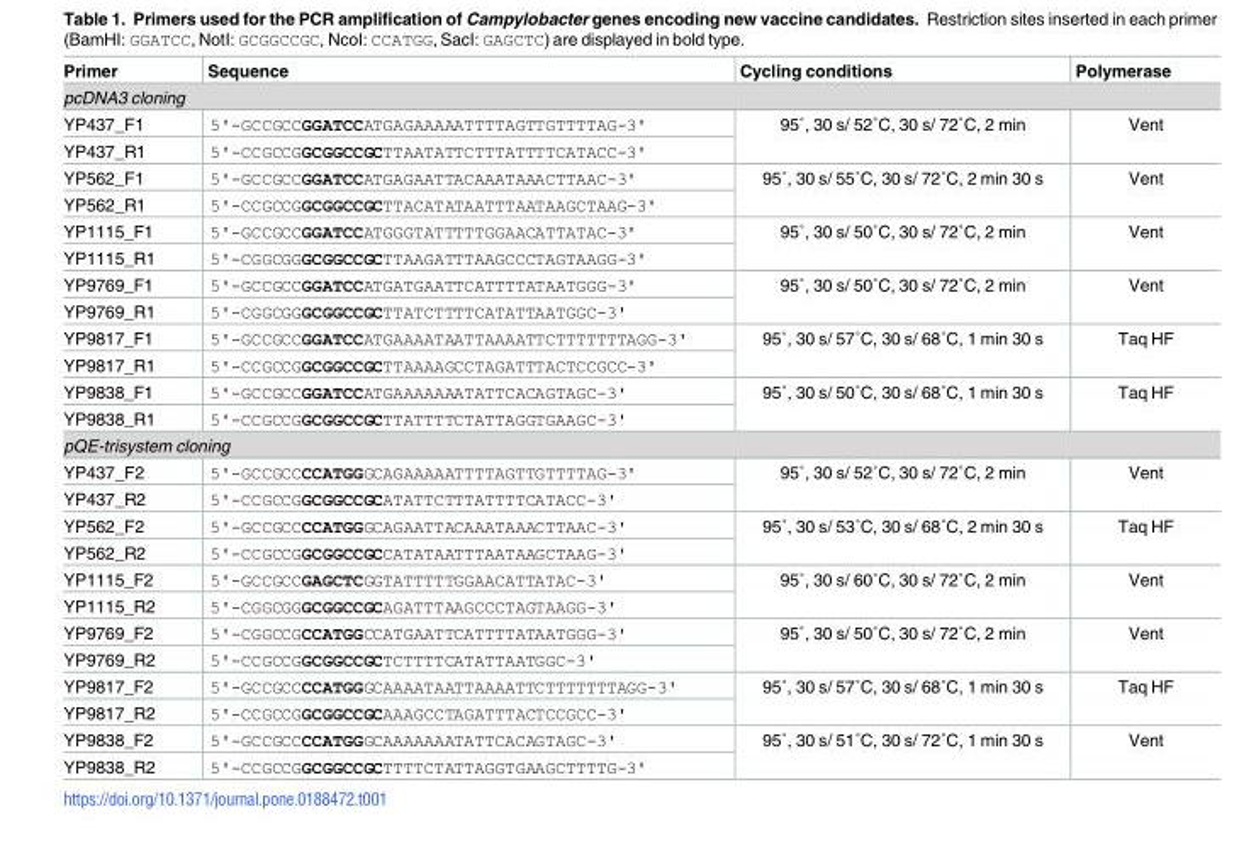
<table><thead><tr><td>Primer</td><td>Sequence</td><td>Cycling conditions</td><td>Polymerase</td></tr></thead><tbody><tr><td colspan="4">pcDNA3 cloning</td></tr><tr><td>YP437_F1</td><td>5&#x27;-GCCGCCGGATCCATGAGAAAAATTTTAGTTGTTTTAG-3&#x27;</td><td rowspan="2">95˚, 30 s/ 52˚C, 30 s/ 72˚C, 2 min</td><td rowspan="2">Vent</td></tr><tr><td>YP437_R1</td><td>5&#x27;-CCGCCGGCGGCCGCTTAATATTCTTTATTTTCATACC-3&#x27;</td></tr><tr><td>YP562_F1</td><td>5&#x27;-GCCGCCGGATCCATGAGAATTACAAATAAACTTAAC-3&#x27;</td><td rowspan="2">95˚, 30 s/ 55˚C, 30 s/ 72˚C, 2 min 30 s</td><td rowspan="2">Vent</td></tr><tr><td>YP562_R1</td><td>5&#x27;-CCGCCGGCGGCCGCTTACATATAATTTAATAAGCTAAG-3&#x27;</td></tr><tr><td>YP1115_F1</td><td>5&#x27;-GCCGCCGGATCCATGGGTATTTTTGGAACATTATAC-3&#x27;</td><td rowspan="2">95˚, 30 s/ 50˚C, 30 s/ 72˚C, 2 min</td><td rowspan="2">Vent</td></tr><tr><td>YP1115_R1</td><td>5&#x27;-CGGCGGGCGGCCGCTTAAGATTTAAGCCCTAGTAAGG-3&#x27;</td></tr><tr><td>YP9769_F1</td><td>5&#x27;-GCCGCCGGATCCATGATGAATTCATTTTATAATGGG-3&#x27;</td><td rowspan="2">95˚, 30 s/ 50˚C, 30 s/ 72˚C, 2 min</td><td rowspan="2">Vent</td></tr><tr><td>YP9769_R1</td><td>5&#x27;-CGGCGGGCGGCCGCTTATCTTTTCATATTAATGGC-3&#x27;</td></tr><tr><td>YP9817_F1</td><td>5&#x27;-GCCGCCGGATCCATGAAAATAATTAAAATTCTTTTTTTAGG-3&#x27;</td><td rowspan="2">95˚, 30 s/ 57˚C, 30 s/ 68˚C, 1 min 30 s</td><td rowspan="2">Taq HF</td></tr><tr><td>YP9817_R1</td><td>5&#x27;-CCGCCGGCGGCCGCTTAAAAGCCTAGATTTACTCCGCC-3&#x27;</td></tr><tr><td>YP9838_F1</td><td>5&#x27;-GCCGCCGGATCCATGAAAAAAATATTCACAGTAGC-3&#x27;</td><td rowspan="2">95˚, 30 s/ 50˚C, 30 s/ 68˚C, 1 min 30 s</td><td rowspan="2">Taq HF</td></tr><tr><td>YP9838_R1</td><td>5&#x27;-CCGCCGGCGGCCGCTTATTTTCTATTAGGTGAAGC-3&#x27;</td></tr><tr><td colspan="4">pQE-trisystem cloning</td></tr><tr><td>YP437_F2</td><td>5&#x27;-GCCGCCCCATGGGCAGAAAAATTTTAGTTGTTTTAG-3&#x27;</td><td rowspan="2">95˚, 30 s/ 52˚C, 30 s/ 72˚C, 2 min</td><td rowspan="2">Vent</td></tr><tr><td>YP437_R2</td><td>5&#x27;-CCGCCGGCGGCCGCATATTCTTTATTTTCATACC-3&#x27;</td></tr><tr><td>YP562_F2</td><td>5&#x27;-GCCGCCCCATGGGCAGAATTACAAATAAACTTAAC-3&#x27;</td><td rowspan="2">95˚, 30 s/ 53˚C, 30 s/ 68˚C, 2 min 30 s</td><td rowspan="2">Taq HF</td></tr><tr><td>YP562_R2</td><td>5&#x27;-CCGCCGGCGGCCGCCATATAATTTAATAAGCTAAG-3&#x27;</td></tr><tr><td>YP1115_F2</td><td>5&#x27;-GCCGCCGAGCTCGGTATTTTTGGAACATTATAC-3&#x27;</td><td rowspan="2">95˚, 30 s/ 60˚C, 30 s/ 72˚C, 2 min</td><td rowspan="2">Vent</td></tr><tr><td>YP1115_R2</td><td>5&#x27;-CGGCGGGCGGCCGCAGATTTAAGCCCTAGTAAGG-3&#x27;</td></tr><tr><td>YP9769_F2</td><td>5&#x27;-CGGCCGCCATGGCCATGAATTCATTTTATAATGGG-3&#x27;</td><td rowspan="2">95˚, 30 s/ 50˚C, 30 s/ 72˚C, 2 min</td><td rowspan="2">Vent</td></tr><tr><td>YP9769_R2</td><td>5&#x27;-CCGCCGGCGGCCGCTCTTTTCATATTAATGGC-3&#x27;</td></tr><tr><td>YP9817_F2</td><td>5&#x27;-GCCGCCCCATGGGCAAAATAATTAAAATTCTTTTTTTAGG-3&#x27;</td><td rowspan="2">95˚, 30 s/ 57˚C, 30 s/ 68˚C, 1 min 30 s</td><td rowspan="2">Taq HF</td></tr><tr><td>YP9817_R2</td><td>5&#x27;-CCGCCGGCGGCCGCAAAGCCTAGATTTACTCCGCC-3&#x27;</td></tr><tr><td>YP9838_F2</td><td>5&#x27;-GCCGCCCCATGGGCAAAAAAATATTCACAGTAGC-3&#x27;</td><td rowspan="2">95˚, 30 s/ 51˚C, 30 s/ 72˚C, 1 min 30 s</td><td rowspan="2">Vent</td></tr><tr><td>YP9838_R2</td><td>5&#x27;-CCGCCGGCGGCCGCTTTTCTATTAGGTGAAGCTTTTG-3&#x27;</td></tr></tbody></table>